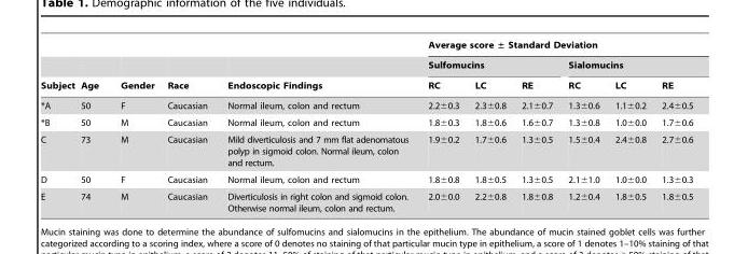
<table><thead><tr><td rowspan="3">Subject</td><td rowspan="3">Age</td><td rowspan="3">Gender</td><td rowspan="3">Race</td><td rowspan="3">Endoscopic Findings</td><td colspan="6">Average score ± Standard Deviation</td></tr><tr><td colspan="3">Sulfomucins</td><td colspan="3">Sialomucins</td></tr><tr><td>RC</td><td>LC</td><td>RE</td><td>RC</td><td>LC</td><td>RE</td></tr></thead><tbody><tr><td>*A</td><td>50</td><td>F</td><td>Caucasian</td><td>Normal ileum, colon and rectum</td><td>2.2±0.3</td><td>2.3±0.8</td><td>2.1±0.7</td><td>1.3±0.6</td><td>1.1±0.2</td><td>2.4±0.5</td></tr><tr><td>*B</td><td>50</td><td>M</td><td>Caucasian</td><td>Normal ileum, colon and rectum</td><td>1.8±0.3</td><td>1.8±0.6</td><td>1.6±0.7</td><td>1.3±0.8</td><td>1.0±0.0</td><td>1.7±0.6</td></tr><tr><td>C</td><td>73</td><td>M</td><td>Caucasian</td><td>Mild diverticulosis and 7 mm flat adenomatous polyp in sigmoid colon. Normal ileum, colon and rectum.</td><td>1.9±0.2</td><td>1.7±0.6</td><td>1.3±0.5</td><td>1.5±0.4</td><td>2.4±0.8</td><td>2.7±0.6</td></tr><tr><td>D</td><td>50</td><td>F</td><td>Caucasian</td><td>Normal ileum, colon and rectum</td><td>1.8±0.8</td><td>1.8±0.5</td><td>1.3±0.5</td><td>2.1±1.0</td><td>1.0±0.0</td><td>1.3±0.3</td></tr><tr><td>E</td><td>74</td><td>M</td><td>Caucasian</td><td>Diverticulosis in right colon and sigmoid colon. Otherwise normal ileum, colon and rectum.</td><td>2.0±0.0</td><td>2.2±0.8</td><td>1.8±0.8</td><td>1.2±0.4</td><td>1.8±0.5</td><td>1.8±0.5</td></tr></tbody></table>